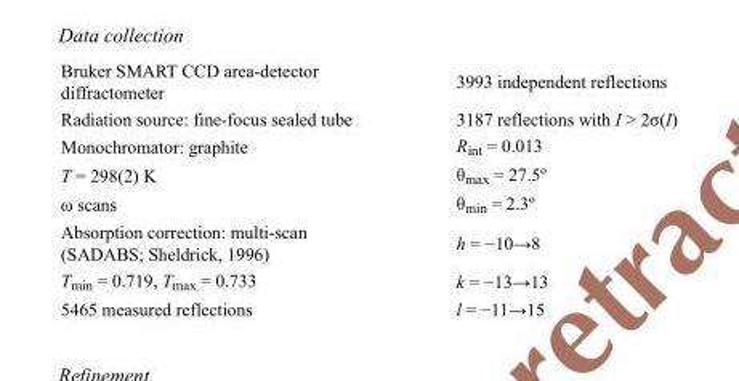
<table><tbody><tr><td>Bruker SMART CCD area-detector diffractometer</td><td>3993 independent reflections</td></tr><tr><td>Radiation source: fine-focus sealed tube</td><td>3187 reflections with I &gt; 2σ(I)</td></tr><tr><td>Monochromator: graphite</td><td>Rint = 0.013</td></tr><tr><td>T = 298(2) K</td><td>θmax = 27.5º</td></tr><tr><td>ω scans</td><td>θmin = 2.3º</td></tr><tr><td>Absorption correction: multi-scan (SADABS; Sheldrick, 1996)</td><td>h = −10→8</td></tr><tr><td>Tmin = 0.719, Tmax = 0.733</td><td>k = −13→13</td></tr><tr><td>5465 measured reflections</td><td>l = −11→15</td></tr></tbody></table>